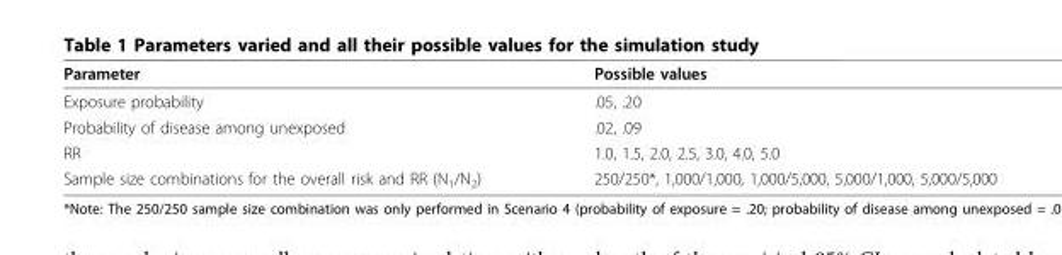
<table><thead><tr><td>Parameter</td><td>Possible values</td></tr></thead><tbody><tr><td>Exposure probability</td><td>.05, .20</td></tr><tr><td>Probability of disease among unexposed</td><td>.02, .09</td></tr><tr><td>RR</td><td>1.0, 1.5, 2.0, 2.5, 3.0, 4.0, 5.0</td></tr><tr><td>Sample size combinations for the overall risk and RR (N<sub>1</sub>/N<sub>2</sub>)</td><td>250/250*, 1,000/1,000, 1,000/5,000, 5,000/1,000, 5,000/5,000</td></tr></tbody></table>